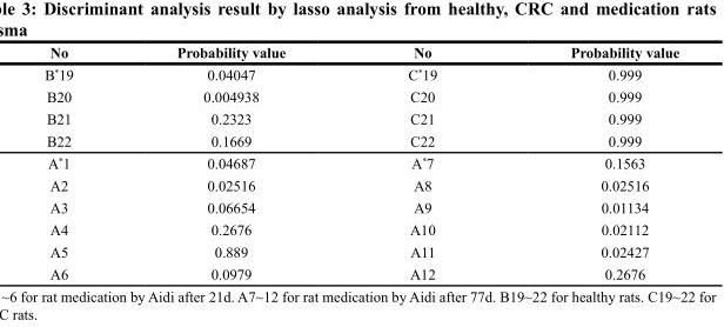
<table><thead><tr><td>No</td><td>Probability value</td><td>No</td><td>Probability value</td></tr></thead><tbody><tr><td>B*19</td><td>0.04047</td><td>C*19</td><td>0.999</td></tr><tr><td>B20</td><td>0.004938</td><td>C20</td><td>0.999</td></tr><tr><td>B21</td><td>0.2323</td><td>C21</td><td>0.999</td></tr><tr><td>B22</td><td>0.1669</td><td>C22</td><td>0.999</td></tr><tr><td>A*1</td><td>0.04687</td><td>A*7</td><td>0.1563</td></tr><tr><td>A2</td><td>0.02516</td><td>A8</td><td>0.02516</td></tr><tr><td>A3</td><td>0.06654</td><td>A9</td><td>0.01134</td></tr><tr><td>A4</td><td>0.2676</td><td>A10</td><td>0.02112</td></tr><tr><td>A5</td><td>0.889</td><td>A11</td><td>0.02427</td></tr><tr><td>A6</td><td>0.0979</td><td>A12</td><td>0.2676</td></tr></tbody></table>